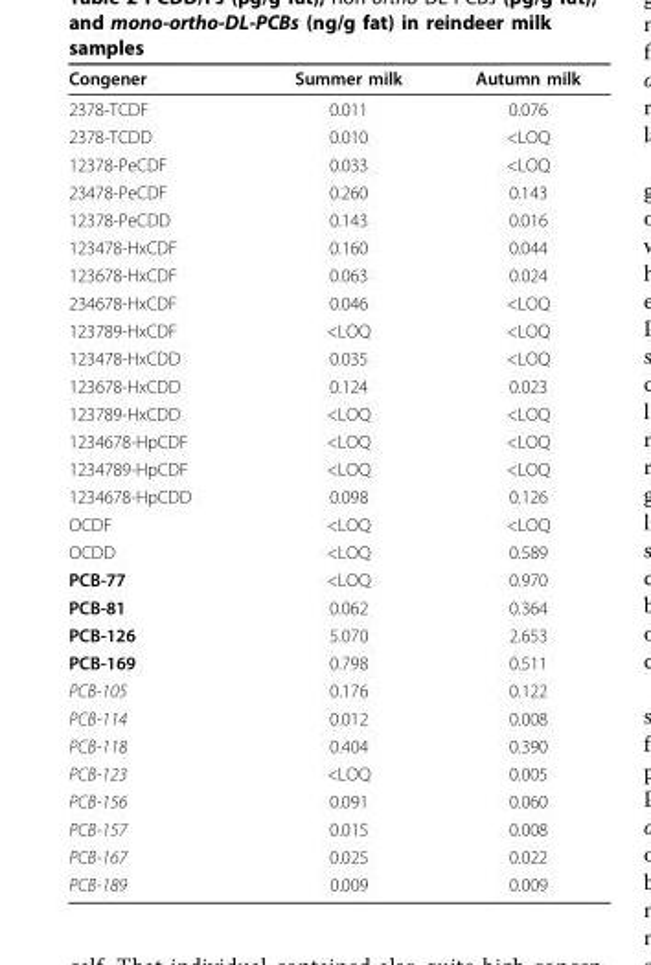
<table><thead><tr><td>Congener</td><td>Summer milk</td><td>Autumn milk</td></tr></thead><tbody><tr><td>2378-TCDF</td><td>0.011</td><td>0.076</td></tr><tr><td>2378-TCDD</td><td>0.010</td><td>&lt;LOQ</td></tr><tr><td>12378-PeCDF</td><td>0.033</td><td>&lt;LOQ</td></tr><tr><td>23478-PeCDF</td><td>0.260</td><td>0.143</td></tr><tr><td>12378-PeCDD</td><td>0.143</td><td>0.016</td></tr><tr><td>123478-HxCDF</td><td>0.160</td><td>0.044</td></tr><tr><td>123678-HxCDF</td><td>0.063</td><td>0.024</td></tr><tr><td>234678-HxCDF</td><td>0.046</td><td>&lt;LOQ</td></tr><tr><td>123789-HxCDF</td><td>&lt;LOQ</td><td>&lt;LOQ</td></tr><tr><td>123478-HxCDD</td><td>0.035</td><td>&lt;LOQ</td></tr><tr><td>123678-HxCDD</td><td>0.124</td><td>0.023</td></tr><tr><td>123789-HxCDD</td><td>&lt;LOQ</td><td>&lt;LOQ</td></tr><tr><td>1234678-HpCDF</td><td>&lt;LOQ</td><td>&lt;LOQ</td></tr><tr><td>1234789-HpCDF</td><td>&lt;LOQ</td><td>&lt;LOQ</td></tr><tr><td>1234678-HpCDD</td><td>0.098</td><td>0.126</td></tr><tr><td>OCDF</td><td>&lt;LOQ</td><td>&lt;LOQ</td></tr><tr><td>OCDD</td><td>&lt;LOQ</td><td>0.589</td></tr><tr><td>PCB-77</td><td>&lt;LOQ</td><td>0.970</td></tr><tr><td>PCB-81</td><td>0.062</td><td>0.364</td></tr><tr><td>PCB-126</td><td>5.070</td><td>2.653</td></tr><tr><td>PCB-169</td><td>0.798</td><td>0.511</td></tr><tr><td>PCB-105</td><td>0.176</td><td>0.122</td></tr><tr><td>PCB-114</td><td>0.012</td><td>0.008</td></tr><tr><td>PCB-118</td><td>0.404</td><td>0.390</td></tr><tr><td>PCB-123</td><td>&lt;LOQ</td><td>0.005</td></tr><tr><td>PCB-156</td><td>0.091</td><td>0.060</td></tr><tr><td>PCB-157</td><td>0.015</td><td>0.008</td></tr><tr><td>PCB-167</td><td>0.025</td><td>0.022</td></tr><tr><td>PCB-189</td><td>0.009</td><td>0.009</td></tr></tbody></table>